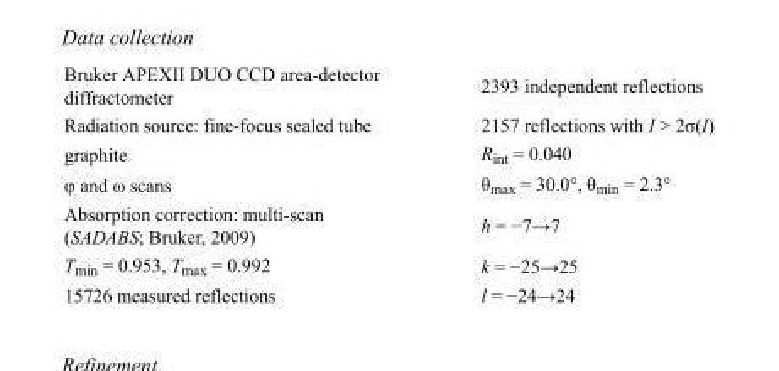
<table><tbody><tr><td>Bruker APEXII DUO CCD area-detector diffractometer</td><td>2393 independent reflections</td></tr><tr><td>Radiation source: fine-focus sealed tube</td><td>2157 reflections with I &gt; 2σ(I)</td></tr><tr><td>graphite</td><td>R<sub>int</sub> = 0.040</td></tr><tr><td>φ and ω scans</td><td>θ<sub>max</sub> = 30.0°, θ<sub>min</sub> = 2.3°</td></tr><tr><td>Absorption correction: multi-scan (SADABS; Bruker, 2009)</td><td>h = −7→7</td></tr><tr><td>T<sub>min</sub> = 0.953, T<sub>max</sub> = 0.992</td><td>k = −25→25</td></tr><tr><td>15726 measured reflections</td><td>l = −24→24</td></tr></tbody></table>